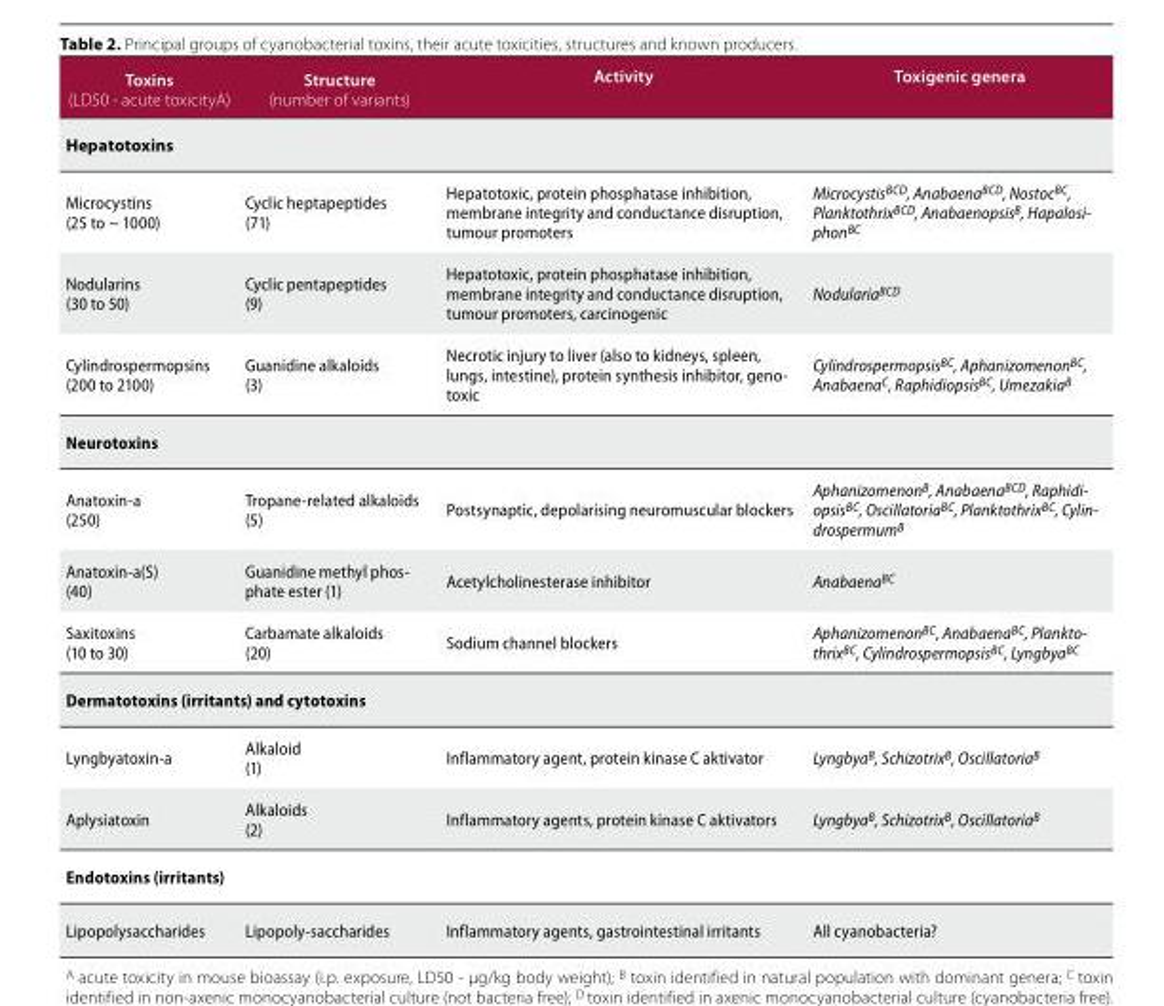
<table><thead><tr><td>Toxins (LD50 - acute toxicityA)</td><td>Structure (number of variants)</td><td>Activity</td><td>Toxigenic genera</td></tr></thead><tbody><tr><td colspan="4">Hepatotoxins</td></tr><tr><td>Microcystins (25 to ~ 1000)</td><td>Cyclic heptapeptides (71)</td><td>Hepatotoxic, protein phosphatase inhibition, membrane integrity and conductance disruption, tumour promoters</td><td>MicrocystisBCD, AnabaenaBCD, NostocBC, PlanktothrixBCD, AnabaenopsisB, Hapalosi- phonBC</td></tr><tr><td>Nodularins (30 to 50)</td><td>Cyclic pentapeptides (9)</td><td>Hepatotoxic, protein phosphatase inhibition, membrane integrity and conductance disruption, tumour promoters, carcinogenic</td><td>Nodularia<sup>BCD</sup></td></tr><tr><td>Cylindrospermopsins (200 to 2100)</td><td>Guanidine alkaloids (3)</td><td>Necrotic injury to liver (also to kidneys, spleen, lungs, intestine), protein synthesis inhibitor, geno- toxic</td><td>Cylindrospermopsis<sup>BC</sup>, Aphanizomenon<sup>BC</sup>, Anabaena<sup>C</sup>, Raphidiopsis<sup>BC</sup>, Umezakia<sup>B</sup></td></tr><tr><td colspan="4">Neurotoxins</td></tr><tr><td>Anatoxin-a (250)</td><td>Tropane-related alkaloids (5)</td><td>Postsynaptic, depolarising neuromuscular blockers</td><td>AphanizomenonB, AnabaenaBCD, Raphidi- opsisBC, OscillatoriaBC, PlanktothrixBC, Cylin- drospermumB</td></tr><tr><td>Anatoxin-a(S) (40)</td><td>Guanidine methyl phos- phate ester (1)</td><td>Acetylcholinesterase inhibitor</td><td>Anabaena<sup>BC</sup></td></tr><tr><td>Saxitoxins (10 to 30)</td><td>Carbamate alkaloids (20)</td><td>Sodium channel blockers</td><td>AphanizomenonBC, AnabaenaBC, Plankto- thrixBC, CylindrospermopsisBC, LyngbyaBC</td></tr><tr><td colspan="4">Dermatotoxins (irritants) and cytotoxins</td></tr><tr><td>Lyngbyatoxin-a</td><td>Alkaloid (1)</td><td>Inflammatory agent, protein kinase C aktivator</td><td>Lyngbya<sup>B</sup>, Schizotrix<sup>B</sup>, Oscillatoria<sup>B</sup></td></tr><tr><td>Aplysiatoxin</td><td>Alkaloids (2)</td><td>Inflammatory agents, protein kinase C aktivators</td><td>Lyngbya<sup>B</sup>, Schizotrix<sup>B</sup>, Oscillatoria<sup>B</sup></td></tr><tr><td colspan="4">Endotoxins (irritants)</td></tr><tr><td>Lipopolysaccharides</td><td>Lipopoly-saccharides</td><td>Inflammatory agents, gastrointestinal irritants</td><td>All cyanobacteria?</td></tr></tbody></table>